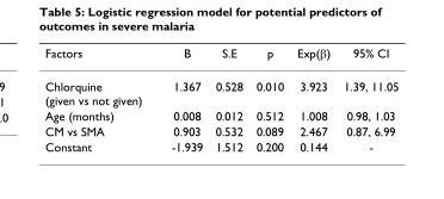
<table><thead><tr><td>Factors</td><td>B</td><td>S.E</td><td>p</td><td>Exp(β)</td><td>95% CI</td></tr></thead><tbody><tr><td>Chlorquine (given vs not given)</td><td>1.367</td><td>0.528</td><td>0.010</td><td>3.923</td><td>1.39, 11.05</td></tr><tr><td>Age (months)</td><td>0.008</td><td>0.012</td><td>0.512</td><td>1.008</td><td>0.98, 1.03</td></tr><tr><td>CM vs SMA</td><td>0.903</td><td>0.532</td><td>0.089</td><td>2.467</td><td>0.87, 6.99</td></tr><tr><td>Constant</td><td>-1.939</td><td>1.512</td><td>0.200</td><td>0.144</td><td>-</td></tr></tbody></table>